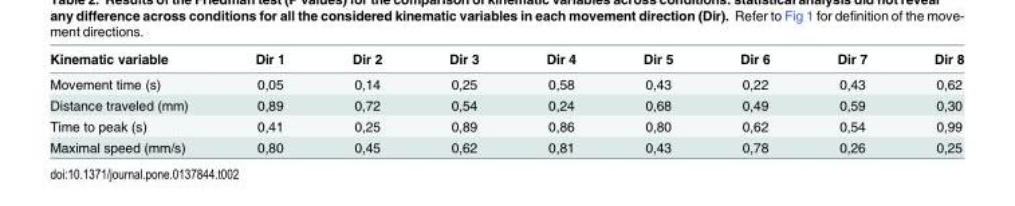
<table><thead><tr><td>Kinematic variable</td><td>Dir 1</td><td>Dir 2</td><td>Dir 3</td><td>Dir 4</td><td>Dir 5</td><td>Dir 6</td><td>Dir 7</td><td>Dir 8</td></tr></thead><tbody><tr><td>Movement time (s)</td><td>0,05</td><td>0,14</td><td>0,25</td><td>0,58</td><td>0,43</td><td>0,22</td><td>0,43</td><td>0,62</td></tr><tr><td>Distance traveled (mm)</td><td>0,89</td><td>0,72</td><td>0,54</td><td>0,24</td><td>0,68</td><td>0,49</td><td>0,59</td><td>0,30</td></tr><tr><td>Time to peak (s)</td><td>0,41</td><td>0,25</td><td>0,89</td><td>0,86</td><td>0,80</td><td>0,62</td><td>0,54</td><td>0,99</td></tr><tr><td>Maximal speed (mm/s)</td><td>0,80</td><td>0,45</td><td>0,62</td><td>0,81</td><td>0,43</td><td>0,78</td><td>0,26</td><td>0,25</td></tr></tbody></table>